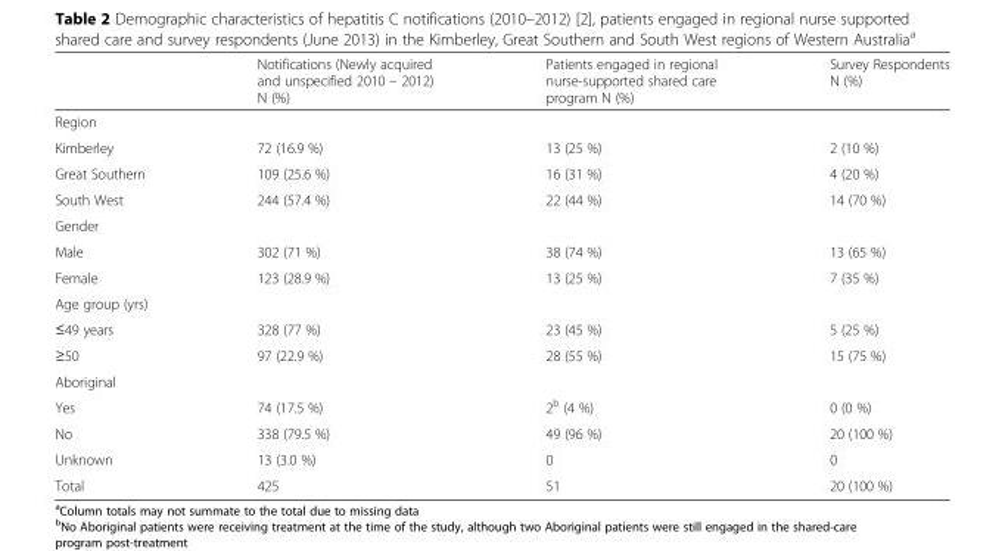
<table><thead><tr><td></td><td>Notifications (Newly acquired and unspecified 2010 – 2012) N (%)</td><td>Patients engaged in regional nurse-supported shared care program N (%)</td><td>Survey Respondents N (%)</td></tr></thead><tbody><tr><td colspan="4">Region</td></tr><tr><td>Kimberley</td><td>72 (16.9 %)</td><td>13 (25 %)</td><td>2 (10 %)</td></tr><tr><td>Great Southern</td><td>109 (25.6 %)</td><td>16 (31 %)</td><td>4 (20 %)</td></tr><tr><td>South West</td><td>244 (57.4 %)</td><td>22 (44 %)</td><td>14 (70 %)</td></tr><tr><td colspan="4">Gender</td></tr><tr><td>Male</td><td>302 (71 %)</td><td>38 (74 %)</td><td>13 (65 %)</td></tr><tr><td>Female</td><td>123 (28.9 %)</td><td>13 (25 %)</td><td>7 (35 %)</td></tr><tr><td colspan="4">Age group (yrs)</td></tr><tr><td>≤49 years</td><td>328 (77 %)</td><td>23 (45 %)</td><td>5 (25 %)</td></tr><tr><td>≥50</td><td>97 (22.9 %)</td><td>28 (55 %)</td><td>15 (75 %)</td></tr><tr><td colspan="4">Aboriginal</td></tr><tr><td>Yes</td><td>74 (17.5 %)</td><td>2<sup>b</sup> (4 %)</td><td>0 (0 %)</td></tr><tr><td>No</td><td>338 (79.5 %)</td><td>49 (96 %)</td><td>20 (100 %)</td></tr><tr><td>Unknown</td><td>13 (3.0 %)</td><td>0</td><td>0</td></tr><tr><td>Total</td><td>425</td><td>51</td><td>20 (100 %)</td></tr></tbody></table>